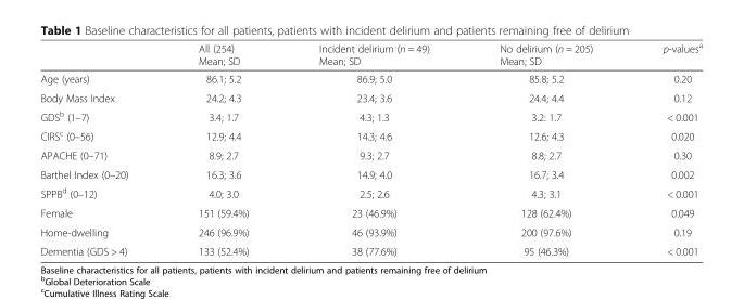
<table><thead><tr><td></td><td>All (254) Mean; SD</td><td>Incident delirium (n = 49) Mean; SD</td><td>No delirium (n = 205) Mean; SD</td><td>p-values<sup>a</sup></td></tr></thead><tbody><tr><td>Age (years)</td><td>86.1; 5.2</td><td>86.9; 5.0</td><td>85.8; 5.2</td><td>0.20</td></tr><tr><td>Body Mass Index</td><td>24.2; 4.3</td><td>23.4; 3.6</td><td>24.4; 4.4</td><td>0.12</td></tr><tr><td>GDS<sup>b</sup> (1–7)</td><td>3.4; 1.7</td><td>4.3; 1.3</td><td>3.2: 1.7</td><td>&lt; 0.001</td></tr><tr><td>CIRS<sup>c</sup> (0–56)</td><td>12.9; 4.4</td><td>14.3; 4.6</td><td>12.6; 4.3</td><td>0.020</td></tr><tr><td>APACHE (0–71)</td><td>8.9; 2.7</td><td>9.3; 2.7</td><td>8.8; 2.7</td><td>0.30</td></tr><tr><td>Barthel Index (0–20)</td><td>16.3; 3.6</td><td>14.9; 4.0</td><td>16.7; 3.4</td><td>0.002</td></tr><tr><td>SPPB<sup>d</sup> (0–12)</td><td>4.0; 3.0</td><td>2.5; 2.6</td><td>4.3; 3.1</td><td>&lt; 0.001</td></tr><tr><td>Female</td><td>151 (59.4%)</td><td>23 (46.9%)</td><td>128 (62.4%)</td><td>0.049</td></tr><tr><td>Home-dwelling</td><td>246 (96.9%)</td><td>46 (93.9%)</td><td>200 (97.6%)</td><td>0.19</td></tr><tr><td>Dementia (GDS &gt; 4)</td><td>133 (52.4%)</td><td>38 (77.6%)</td><td>95 (46.3%)</td><td>&lt; 0.001</td></tr></tbody></table>